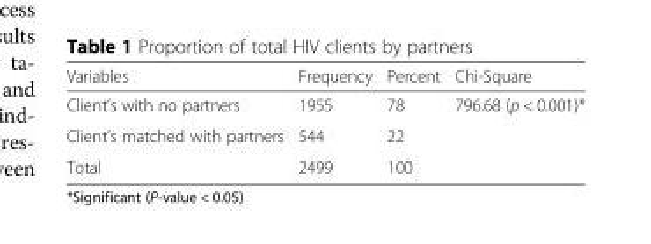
<table><thead><tr><td>Variables</td><td>Frequency</td><td>Percent</td><td>Chi-Square</td></tr></thead><tbody><tr><td>Client’s with no partners</td><td>1955</td><td>78</td><td>796.68 (p &lt; 0.001)*</td></tr><tr><td>Client’s matched with partners</td><td>544</td><td>22</td><td></td></tr><tr><td>Total</td><td>2499</td><td>100</td><td></td></tr></tbody></table>